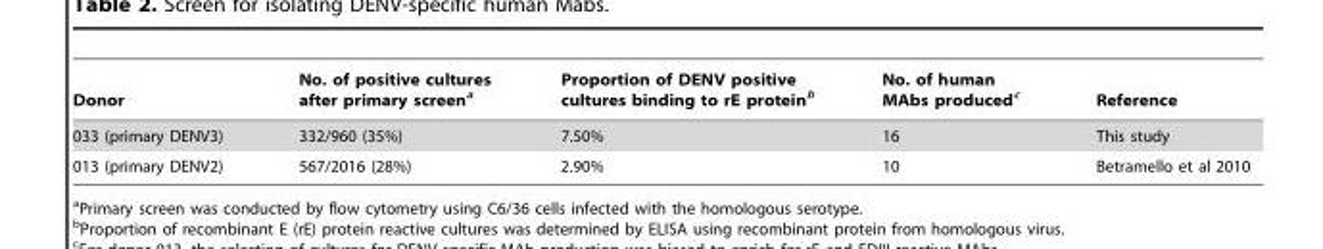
<table><thead><tr><td>Donor</td><td>No. of positive cultures after primary screen<sup>a</sup></td><td>Proportion of DENV positive cultures binding to rE protein<sup>b</sup></td><td>No. of human MAbs produced<sup>c</sup></td><td>Reference</td></tr></thead><tbody><tr><td>033 (primary DENV3)</td><td>332/960 (35%)</td><td>7.50%</td><td>16</td><td>This study</td></tr><tr><td>013 (primary DENV2)</td><td>567/2016 (28%)</td><td>2.90%</td><td>10</td><td>Betramello et al 2010</td></tr></tbody></table>